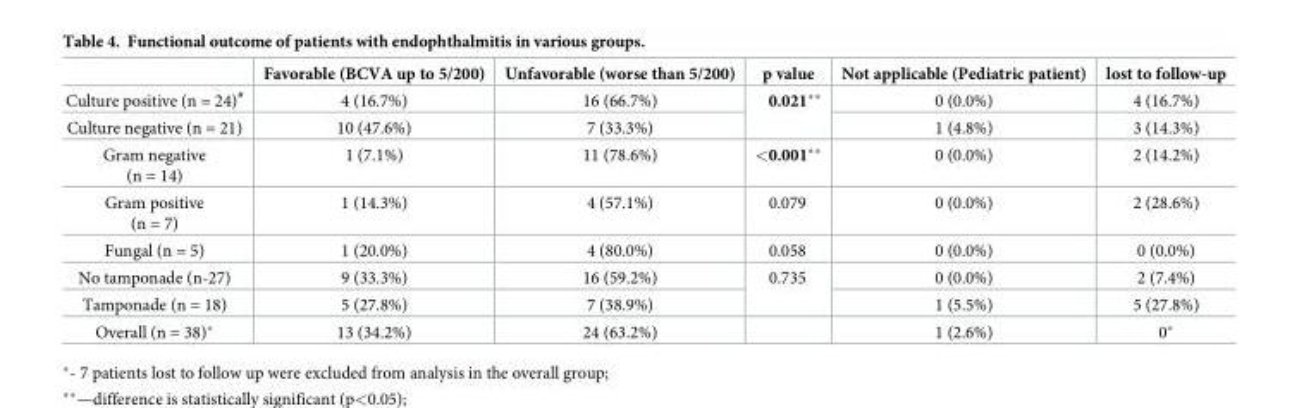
<table><thead><tr><td></td><td>Favorable (BCVA up to 5/200)</td><td>Unfavorable (worse than 5/200)</td><td>p value</td><td>Not applicable (Pediatric patient)</td><td>lost to follow-up</td></tr></thead><tbody><tr><td>Culture positive (n = 24)<sup>#</sup></td><td>4 (16.7%)</td><td>16 (66.7%)</td><td rowspan="2">0.021**</td><td>0 (0.0%)</td><td>4 (16.7%)</td></tr><tr><td>Culture negative (n = 21)</td><td>10 (47.6%)</td><td>7 (33.3%)</td><td>1 (4.8%)</td><td>3 (14.3%)</td></tr><tr><td>Gram negative (n = 14)</td><td>1 (7.1%)</td><td>11 (78.6%)</td><td>&lt;0.001**</td><td>0 (0.0%)</td><td>2 (14.2%)</td></tr><tr><td>Gram positive (n = 7)</td><td>1 (14.3%)</td><td>4 (57.1%)</td><td>0.079</td><td>0 (0.0%)</td><td>2 (28.6%)</td></tr><tr><td>Fungal (n = 5)</td><td>1 (20.0%)</td><td>4 (80.0%)</td><td>0.058</td><td>0 (0.0%)</td><td>0 (0.0%)</td></tr><tr><td>No tamponade (n-27)</td><td>9 (33.3%)</td><td>16 (59.2%)</td><td rowspan="2">0.735</td><td>0 (0.0%)</td><td>2 (7.4%)</td></tr><tr><td>Tamponade (n = 18)</td><td>5 (27.8%)</td><td>7 (38.9%)</td><td>1 (5.5%)</td><td>5 (27.8%)</td></tr><tr><td>Overall (n = 38)*</td><td>13 (34.2%)</td><td>24 (63.2%)</td><td></td><td>1 (2.6%)</td><td>0*</td></tr></tbody></table>